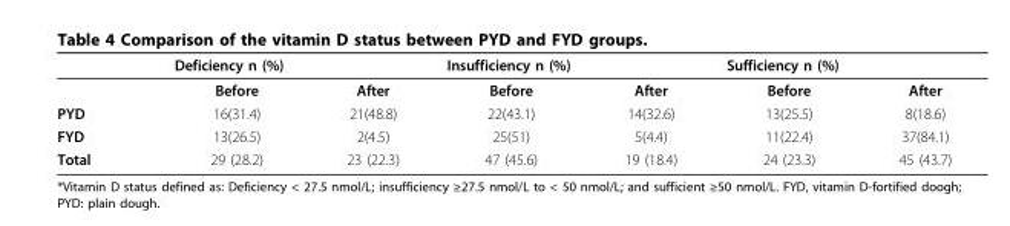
<table><thead><tr><td rowspan="2"></td><td colspan="2">Deficiency n (%)</td><td colspan="2">Insufficiency n (%)</td><td colspan="2">Sufficiency n (%)</td></tr><tr><td>Before</td><td>After</td><td>Before</td><td>After</td><td>Before</td><td>After</td></tr></thead><tbody><tr><td>PYD</td><td>16(31.4)</td><td>21(48.8)</td><td>22(43.1)</td><td>14(32.6)</td><td>13(25.5)</td><td>8(18.6)</td></tr><tr><td>FYD</td><td>13(26.5)</td><td>2(4.5)</td><td>25(51)</td><td>5(4.4)</td><td>11(22.4)</td><td>37(84.1)</td></tr><tr><td>Total</td><td>29 (28.2)</td><td>23 (22.3)</td><td>47 (45.6)</td><td>19 (18.4)</td><td>24 (23.3)</td><td>45 (43.7)</td></tr></tbody></table>